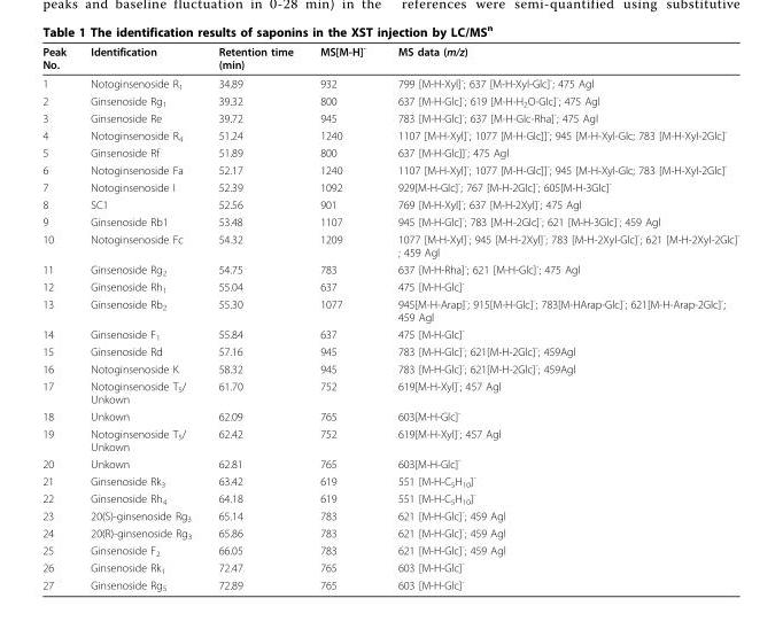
<table><thead><tr><td>Peak No.</td><td>Identification</td><td>Retention time (min)</td><td>MS[M-H]<sup>-</sup></td><td>MS data (m/z)</td></tr></thead><tbody><tr><td>1</td><td>Notoginsenoside R<sub>1</sub></td><td>34.89</td><td>932</td><td>799 [M-H-Xyl]<sup>-</sup>; 637 [M-H-Xyl-Glc]<sup>-</sup>; 475 Agl</td></tr><tr><td>2</td><td>Ginsenoside Rg<sub>1</sub></td><td>39.32</td><td>800</td><td>637 [M-H-Glc]<sup>-</sup>; 619 [M-H-H<sub>2</sub>O-Glc]<sup>-</sup>; 475 Agl</td></tr><tr><td>3</td><td>Ginsenoside Re</td><td>39.72</td><td>945</td><td>783 [M-H-Glc]<sup>-</sup>; 637 [M-H-Glc-Rha]<sup>-</sup>; 475 Agl</td></tr><tr><td>4</td><td>Notoginsenoside R<sub>4</sub></td><td>51.24</td><td>1240</td><td>1107 [M-H-Xyl]<sup>-</sup>; 1077 [M-H-Glc]]<sup>-</sup>; 945 [M-H-Xyl-Glc; 783 [M-H-Xyl-2Glc]<sup>-</sup></td></tr><tr><td>5</td><td>Ginsenoside Rf</td><td>51.89</td><td>800</td><td>637 [M-H-Glc]]<sup>-</sup>; 475 Agl</td></tr><tr><td>6</td><td>Notoginsenoside Fa</td><td>52.17</td><td>1240</td><td>1107 [M-H-Xyl]<sup>-</sup>; 1077 [M-H-Glc]]<sup>-</sup>; 945 [M-H-Xyl-Glc; 783 [M-H-Xyl-2Glc]<sup>-</sup></td></tr><tr><td>7</td><td>Notoginsenoside I</td><td>52.39</td><td>1092</td><td>929[M-H-Glc]<sup>-</sup>; 767 [M-H-2Glc]<sup>-</sup>; 605[M-H-3Glc]<sup>-</sup></td></tr><tr><td>8</td><td>SC1</td><td>52.56</td><td>901</td><td>769 [M-H-Xyl]<sup>-</sup>; 637 [M-H-2Xyl]<sup>-</sup>; 475 Agl</td></tr><tr><td>9</td><td>Ginsenoside Rb1</td><td>53.48</td><td>1107</td><td>945 [M-H-Glc]<sup>-</sup>; 783 [M-H-2Glc]<sup>-</sup>; 621 [M-H-3Glc]<sup>-</sup>; 459 Agl</td></tr><tr><td>10</td><td>Notoginsenoside Fc</td><td>54.32</td><td>1209</td><td>1077 [M-H-Xyl]<sup>-</sup>; 945 [M-H-2Xyl]<sup>-</sup>; 783 [M-H-2Xyl-Glc]<sup>-</sup>; 621 [M-H-2Xyl-2Glc]<sup>-</sup> ; 459 Agl</td></tr><tr><td>11</td><td>Ginsenoside Rg<sub>2</sub></td><td>54.75</td><td>783</td><td>637 [M-H-Rha]<sup>-</sup>; 621 [M-H-Glc]<sup>-</sup>; 475 Agl</td></tr><tr><td>12</td><td>Ginsenoside Rh<sub>1</sub></td><td>55.04</td><td>637</td><td>475 [M-H-Glc]<sup>-</sup></td></tr><tr><td>13</td><td>Ginsenoside Rb<sub>2</sub></td><td>55.30</td><td>1077</td><td>945[M-H-Arap]<sup>-</sup>; 915[M-H-Glc]<sup>-</sup>; 783[M-HArap-Glc]<sup>-</sup>; 621[M-H-Arap-2Glc]<sup>-</sup>; 459 Agl</td></tr><tr><td>14</td><td>Ginsenoside F<sub>1</sub></td><td>55.84</td><td>637</td><td>475 [M-H-Glc]<sup>-</sup></td></tr><tr><td>15</td><td>Ginsenoside Rd</td><td>57.16</td><td>945</td><td>783 [M-H-Glc]<sup>-</sup>; 621[M-H-2Glc]<sup>-</sup>; 459Agl</td></tr><tr><td>16</td><td>Notoginsenoside K</td><td>58.32</td><td>945</td><td>783 [M-H-Glc]<sup>-</sup>; 621[M-H-2Glc]<sup>-</sup>; 459Agl</td></tr><tr><td>17</td><td>Notoginsenoside T<sub>5</sub>/ Unkown</td><td>61.70</td><td>752</td><td>619[M-H-Xyl]<sup>-</sup>; 457 Agl</td></tr><tr><td>18</td><td>Unkown</td><td>62.09</td><td>765</td><td>603[M-H-Glc]<sup>-</sup></td></tr><tr><td>19</td><td>Notoginsenoside T<sub>5</sub>/ Unkown</td><td>62.42</td><td>752</td><td>619[M-H-Xyl]<sup>-</sup>; 457 Agl</td></tr><tr><td>20</td><td>Unkown</td><td>62.81</td><td>765</td><td>603[M-H-Glc]<sup>-</sup></td></tr><tr><td>21</td><td>Ginsenoside Rk<sub>3</sub></td><td>63.42</td><td>619</td><td>551 [M-H-C<sub>5</sub>H<sub>10</sub>]<sup>-</sup></td></tr><tr><td>22</td><td>Ginsenoside Rh<sub>4</sub></td><td>64.18</td><td>619</td><td>551 [M-H-C<sub>5</sub>H<sub>10</sub>]<sup>-</sup></td></tr><tr><td>23</td><td>20(S)-ginsenoside Rg<sub>3</sub></td><td>65.14</td><td>783</td><td>621 [M-H-Glc]<sup>-</sup>; 459 Agl</td></tr><tr><td>24</td><td>20(R)-ginsenoside Rg<sub>3</sub></td><td>65.86</td><td>783</td><td>621 [M-H-Glc]<sup>-</sup>; 459 Agl</td></tr><tr><td>25</td><td>Ginsenoside F<sub>2</sub></td><td>66.05</td><td>783</td><td>621 [M-H-Glc]<sup>-</sup>; 459 Agl</td></tr><tr><td>26</td><td>Ginsenoside Rk<sub>1</sub></td><td>72.47</td><td>765</td><td>603 [M-H-Glc]<sup>-</sup></td></tr><tr><td>27</td><td>Ginsenoside Rg<sub>5</sub></td><td>72.89</td><td>765</td><td>603 [M-H-Glc]<sup>-</sup></td></tr></tbody></table>